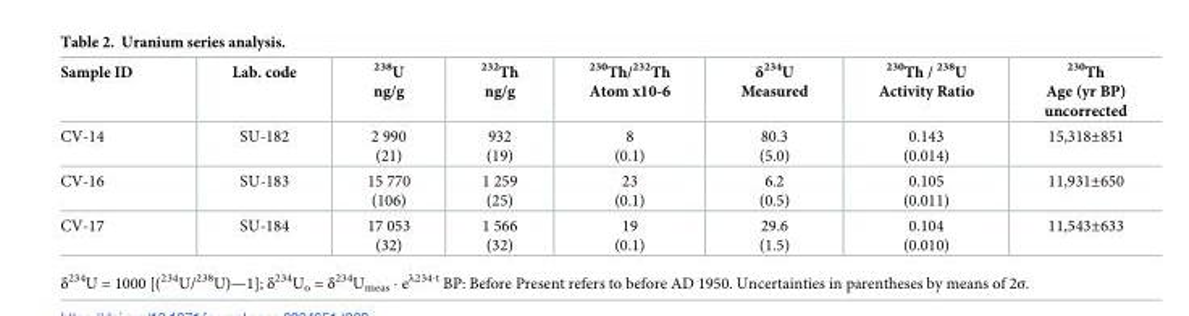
<table><thead><tr><td>Sample ID</td><td>Lab. code</td><td><sup>238</sup>U ng/g</td><td><sup>232</sup>Th ng/g</td><td><sup>230</sup>Th/<sup>232</sup>Th Atom x10-6</td><td>δ<sup>234</sup>U Measured</td><td><sup>230</sup>Th / <sup>238</sup>U Activity Ratio</td><td><sup>230</sup>Th Age (yr BP) uncorrected</td></tr></thead><tbody><tr><td>CV-14</td><td>SU-182</td><td>2 990 (21)</td><td>932 (19)</td><td>8 (0.1)</td><td>80.3 (5.0)</td><td>0.143 (0.014)</td><td>15,318±851</td></tr><tr><td>CV-16</td><td>SU-183</td><td>15 770 (106)</td><td>1 259 (25)</td><td>23 (0.1)</td><td>6.2 (0.5)</td><td>0.105 (0.011)</td><td>11,931±650</td></tr><tr><td>CV-17</td><td>SU-184</td><td>17 053 (32)</td><td>1 566 (32)</td><td>19 (0.1)</td><td>29.6 (1.5)</td><td>0.104 (0.010)</td><td>11,543±633</td></tr></tbody></table>